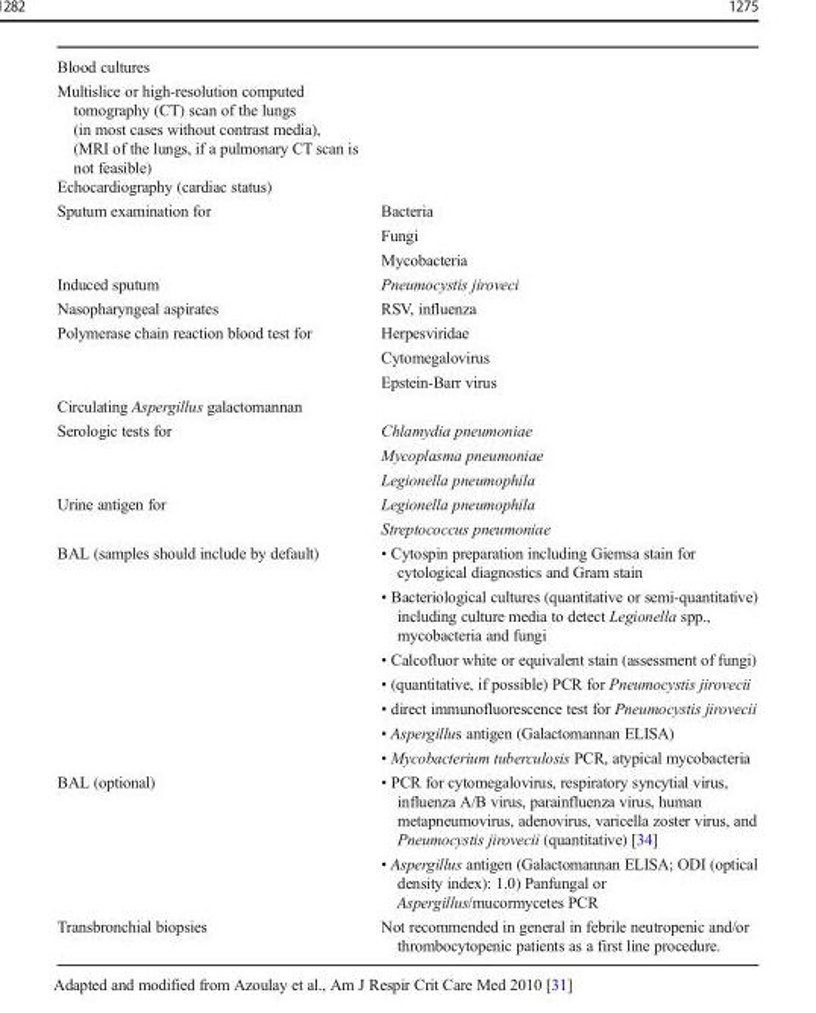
<table><tbody><tr><td colspan="2">Blood cultures</td></tr><tr><td colspan="2">Multislice or high-resolution computed tomography (CT) scan of the lungs (in most cases without contrast media), (MRI of the lungs, if a pulmonary CT scan is not feasible)</td></tr><tr><td colspan="2">Echocardiography (cardiac status)</td></tr><tr><td>Sputum examination for</td><td>Bacteria Fungi Mycobacteria</td></tr><tr><td>Induced sputum</td><td>Pneumocystis jiroveci</td></tr><tr><td>Nasopharyngeal aspirates</td><td>RSV, influenza</td></tr><tr><td>Polymerase chain reaction blood test for</td><td>Herpesviridae Cytomegalovirus Epstein-Barr virus</td></tr><tr><td colspan="2">Circulating Aspergillus galactomannan</td></tr><tr><td>Serologic tests for</td><td>Chlamydia pneumoniae Mycoplasma pneumoniae Legionella pneumophila</td></tr><tr><td>Urine antigen for</td><td>Legionella pneumophila Streptococcus pneumoniae</td></tr><tr><td>BAL (samples should include by default)</td><td>• Cytospin preparation including Giemsa stain for cytological diagnostics and Gram stain • Bacteriological cultures (quantitative or semi-quantitative) including culture media to detect Legionella spp., mycobacteria and fungi • Calcofluor white or equivalent stain (assessment of fungi) • (quantitative, if possible) PCR for Pneumocystis jirovecii • direct immunofluorescence test for Pneumocystis jirovecii • Aspergillus antigen (Galactomannan ELISA) • Mycobacterium tuberculosis PCR, atypical mycobacteria</td></tr><tr><td>BAL (optional)</td><td>• PCR for cytomegalovirus, respiratory syncytial virus, influenza A/B virus, parainfluenza virus, human metapneumovirus, adenovirus, varicella zoster virus, and Pneumocystis jirovecii (quantitative) [34] • Aspergillus antigen (Galactomannan ELISA; ODI (optical density index): 1.0) Panfungal or Aspergillus/mucormycetes PCR</td></tr><tr><td>Transbronchial biopsies</td><td>Not recommended in general in febrile neutropenic and/or thrombocytopenic patients as a first line procedure.</td></tr></tbody></table>